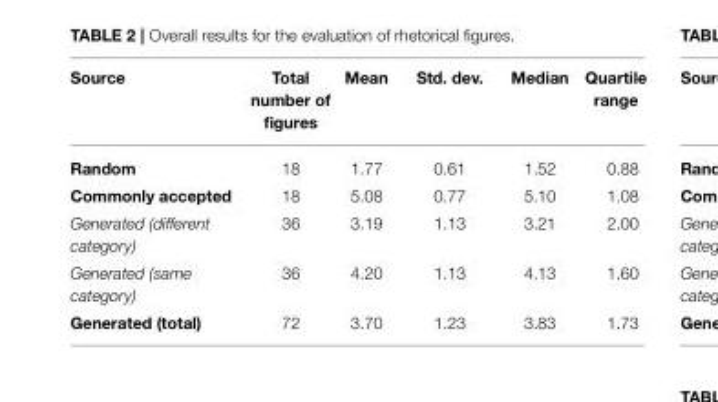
<table><thead><tr><td>Source</td><td>Total number of figures</td><td>Mean</td><td>Std. dev.</td><td>Median</td><td>Quartile range</td></tr></thead><tbody><tr><td>Random</td><td>18</td><td>1.77</td><td>0.61</td><td>1.52</td><td>0.88</td></tr><tr><td>Commonly accepted</td><td>18</td><td>5.08</td><td>0.77</td><td>5.10</td><td>1.08</td></tr><tr><td>Generated (different category)</td><td>36</td><td>3.19</td><td>1.13</td><td>3.21</td><td>2.00</td></tr><tr><td>Generated (same category)</td><td>36</td><td>4.20</td><td>1.13</td><td>4.13</td><td>1.60</td></tr><tr><td>Generated (total)</td><td>72</td><td>3.70</td><td>1.23</td><td>3.83</td><td>1.73</td></tr></tbody></table>